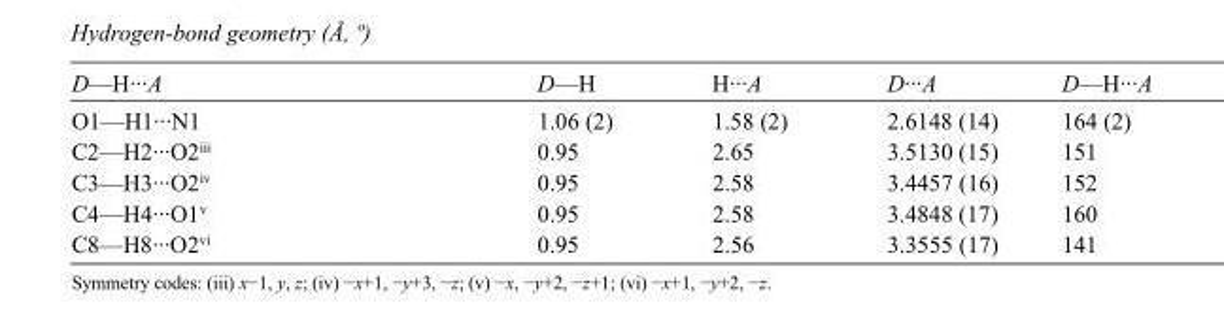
<table><tbody><tr><td>D—H···A</td><td>D—H</td><td>H···A</td><td>D···A</td><td>D—H···A</td></tr><tr><td>O1—H1···N1</td><td>1.06 (2)</td><td>1.58 (2)</td><td>2.6148 (14)</td><td>164 (2)</td></tr><tr><td>C2—H2···O2<sup>iii</sup></td><td>0.95</td><td>2.65</td><td>3.5130 (15)</td><td>151</td></tr><tr><td>C3—H3···O2<sup>iv</sup></td><td>0.95</td><td>2.58</td><td>3.4457 (16)</td><td>152</td></tr><tr><td>C4—H4···O1<sup>v</sup></td><td>0.95</td><td>2.58</td><td>3.4848 (17)</td><td>160</td></tr><tr><td>C8—H8···O2<sup>vi</sup></td><td>0.95</td><td>2.56</td><td>3.3555 (17)</td><td>141</td></tr></tbody></table>